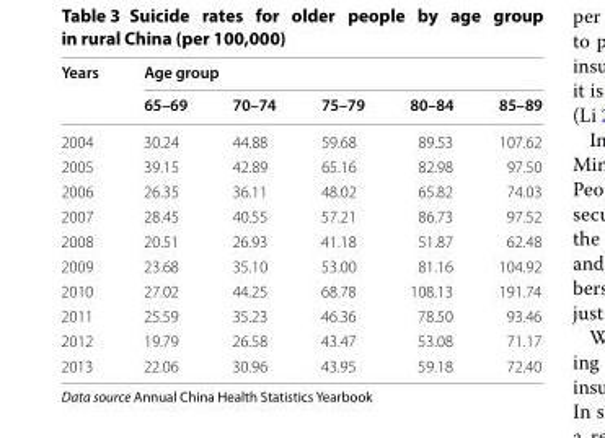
<table><thead><tr><td rowspan="2">Years</td><td colspan="5">Age group</td></tr><tr><td>65–69</td><td>70–74</td><td>75–79</td><td>80–84</td><td>85–89</td></tr></thead><tbody><tr><td>2004</td><td>30.24</td><td>44.88</td><td>59.68</td><td>89.53</td><td>107.62</td></tr><tr><td>2005</td><td>39.15</td><td>42.89</td><td>65.16</td><td>82.98</td><td>97.50</td></tr><tr><td>2006</td><td>26.35</td><td>36.11</td><td>48.02</td><td>65.82</td><td>74.03</td></tr><tr><td>2007</td><td>28.45</td><td>40.55</td><td>57.21</td><td>86.73</td><td>97.52</td></tr><tr><td>2008</td><td>20.51</td><td>26.93</td><td>41.18</td><td>51.87</td><td>62.48</td></tr><tr><td>2009</td><td>23.68</td><td>35.10</td><td>53.00</td><td>81.16</td><td>104.92</td></tr><tr><td>2010</td><td>27.02</td><td>44.25</td><td>68.78</td><td>108.13</td><td>191.74</td></tr><tr><td>2011</td><td>25.59</td><td>35.23</td><td>46.36</td><td>78.50</td><td>93.46</td></tr><tr><td>2012</td><td>19.79</td><td>26.58</td><td>43.47</td><td>53.08</td><td>71.17</td></tr><tr><td>2013</td><td>22.06</td><td>30.96</td><td>43.95</td><td>59.18</td><td>72.40</td></tr></tbody></table>